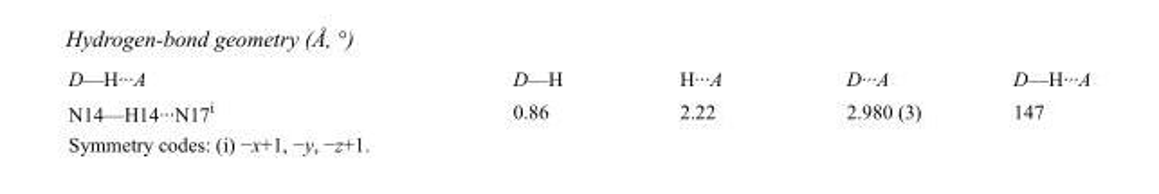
<table><tbody><tr><td>D—H···A</td><td>D—H</td><td>H···A</td><td>D···A</td><td>D—H···A</td></tr><tr><td>N14—H14···N17<sup>i</sup></td><td>0.86</td><td>2.22</td><td>2.980 (3)</td><td>147</td></tr></tbody></table>